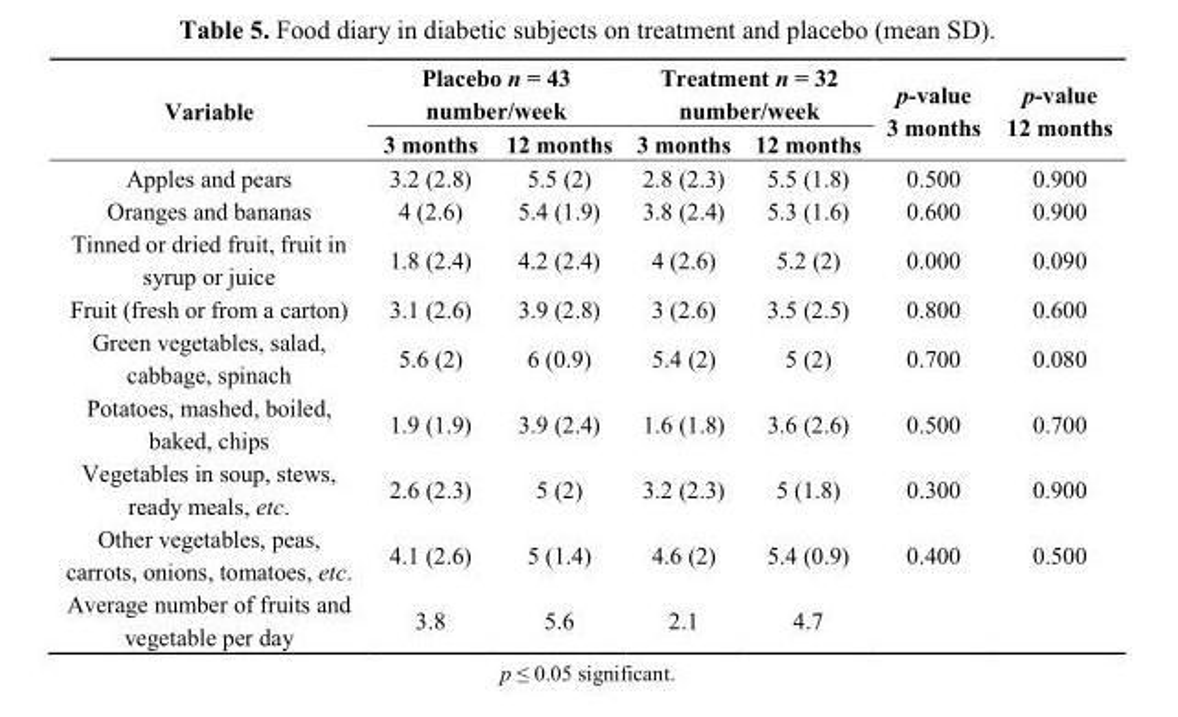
<table><thead><tr><td rowspan="2">Variable</td><td colspan="2">Placebo n = 43 number/week</td><td colspan="2">Treatment n = 32 number/week</td><td rowspan="2">p-value 3 months</td><td rowspan="2">p-value 12 months</td></tr><tr><td>3 months</td><td>12 months</td><td>3 months</td><td>12 months</td></tr></thead><tbody><tr><td>Apples and pears</td><td>3.2 (2.8)</td><td>5.5 (2)</td><td>2.8 (2.3)</td><td>5.5 (1.8)</td><td>0.500</td><td>0.900</td></tr><tr><td>Oranges and bananas</td><td>4 (2.6)</td><td>5.4 (1.9)</td><td>3.8 (2.4)</td><td>5.3 (1.6)</td><td>0.600</td><td>0.900</td></tr><tr><td>Tinned or dried fruit, fruit in syrup or juice</td><td>1.8 (2.4)</td><td>4.2 (2.4)</td><td>4 (2.6)</td><td>5.2 (2)</td><td>0.000</td><td>0.090</td></tr><tr><td>Fruit (fresh or from a carton)</td><td>3.1 (2.6)</td><td>3.9 (2.8)</td><td>3 (2.6)</td><td>3.5 (2.5)</td><td>0.800</td><td>0.600</td></tr><tr><td>Green vegetables, salad, cabbage, spinach</td><td>5.6 (2)</td><td>6 (0.9)</td><td>5.4 (2)</td><td>5 (2)</td><td>0.700</td><td>0.080</td></tr><tr><td>Potatoes, mashed, boiled, baked, chips</td><td>1.9 (1.9)</td><td>3.9 (2.4)</td><td>1.6 (1.8)</td><td>3.6 (2.6)</td><td>0.500</td><td>0.700</td></tr><tr><td>Vegetables in soup, stews, ready meals, etc.</td><td>2.6 (2.3)</td><td>5 (2)</td><td>3.2 (2.3)</td><td>5 (1.8)</td><td>0.300</td><td>0.900</td></tr><tr><td>Other vegetables, peas, carrots, onions, tomatoes, etc.</td><td>4.1 (2.6)</td><td>5 (1.4)</td><td>4.6 (2)</td><td>5.4 (0.9)</td><td>0.400</td><td>0.500</td></tr><tr><td>Average number of fruits and vegetable per day</td><td>3.8</td><td>5.6</td><td>2.1</td><td>4.7</td><td></td><td></td></tr></tbody></table>